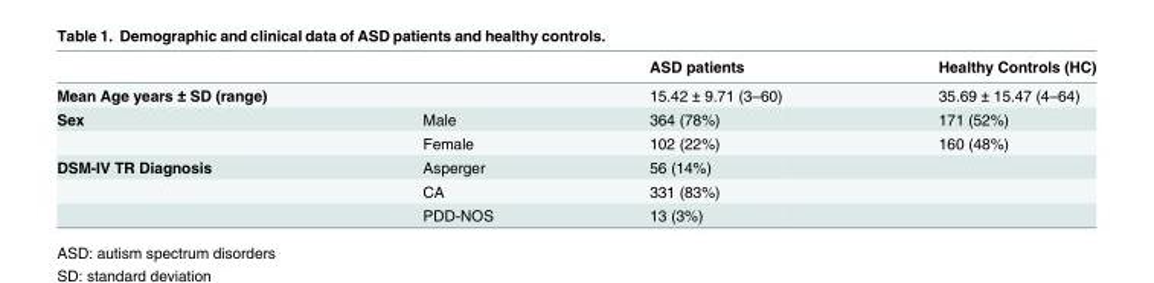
<table><thead><tr><td></td><td></td><td>ASD patients</td><td>Healthy Controls (HC)</td></tr></thead><tbody><tr><td>Mean Age years ± SD (range)</td><td></td><td>15.42 ± 9.71 (3–60)</td><td>35.69 ± 15.47 (4–64)</td></tr><tr><td rowspan="2">Sex</td><td>Male</td><td>364 (78%)</td><td>171 (52%)</td></tr><tr><td>Female</td><td>102 (22%)</td><td>160 (48%)</td></tr><tr><td rowspan="3">DSM-IV TR Diagnosis</td><td>Asperger</td><td>56 (14%)</td><td></td></tr><tr><td>CA</td><td>331 (83%)</td><td></td></tr><tr><td>PDD-NOS</td><td>13 (3%)</td><td></td></tr></tbody></table>